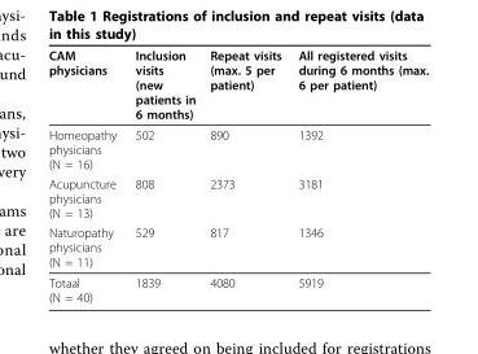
<table><thead><tr><td>CAM physicians</td><td>Inclusion visits (new patients in 6 months)</td><td>Repeat visits (max. 5 per patient)</td><td>All registered visits during 6 months (max. 6 per patient)</td></tr></thead><tbody><tr><td>Homeopathy physicians (N = 16)</td><td>502</td><td>890</td><td>1392</td></tr><tr><td>Acupuncture physicians (N = 13)</td><td>808</td><td>2373</td><td>3181</td></tr><tr><td>Naturopathy physicians (N = 11)</td><td>529</td><td>817</td><td>1346</td></tr><tr><td>Totaal (N = 40)</td><td>1839</td><td>4080</td><td>5919</td></tr></tbody></table>